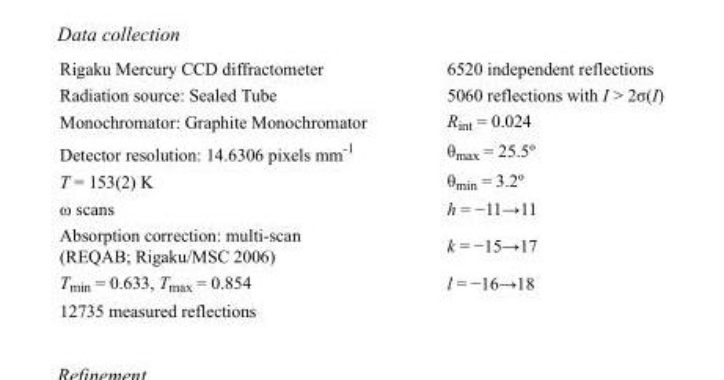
<table><tbody><tr><td>Rigaku Mercury CCD diffractometer</td><td>6520 independent reflections</td></tr><tr><td>Radiation source: Sealed Tube</td><td>5060 reflections with I &gt; 2σ(I)</td></tr><tr><td>Monochromator: Graphite Monochromator</td><td>R<sub>int</sub> = 0.024</td></tr><tr><td>Detector resolution: 14.6306 pixels mm<sup>-1</sup></td><td>θ<sub>max</sub> = 25.5º</td></tr><tr><td>T = 153(2) K</td><td>θ<sub>min</sub> = 3.2º</td></tr><tr><td>ω scans</td><td>h = −11→11</td></tr><tr><td>Absorption correction: multi-scan (REQAB; Rigaku/MSC 2006)</td><td>k = −15→17</td></tr><tr><td>T<sub>min</sub> = 0.633, T<sub>max</sub> = 0.854</td><td>l = −16→18</td></tr><tr><td>12735 measured reflections</td><td></td></tr></tbody></table>